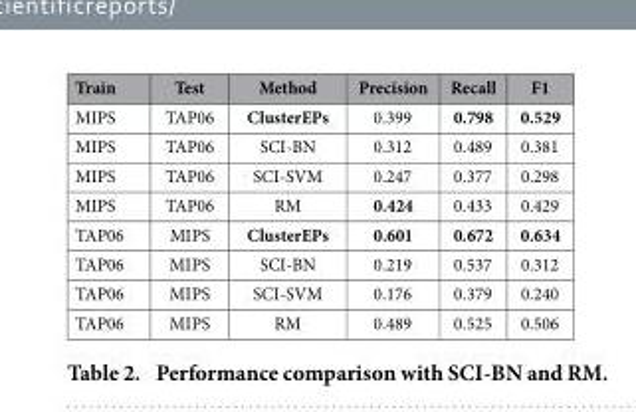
<table><thead><tr><td>Train</td><td>Test</td><td>Method</td><td>Precision</td><td>Recall</td><td>F1</td></tr></thead><tbody><tr><td>MIPS</td><td>TAP06</td><td>ClusterEPs</td><td>0.399</td><td>0.798</td><td>0.529</td></tr><tr><td>MIPS</td><td>TAP06</td><td>SCI-BN</td><td>0.312</td><td>0.489</td><td>0.381</td></tr><tr><td>MIPS</td><td>TAP06</td><td>SCI-SVM</td><td>0.247</td><td>0.377</td><td>0.298</td></tr><tr><td>MIPS</td><td>TAP06</td><td>RM</td><td>0.424</td><td>0.433</td><td>0.429</td></tr><tr><td>TAP06</td><td>MIPS</td><td>ClusterEPs</td><td>0.601</td><td>0.672</td><td>0.634</td></tr><tr><td>TAP06</td><td>MIPS</td><td>SCI-BN</td><td>0.219</td><td>0.537</td><td>0.312</td></tr><tr><td>TAP06</td><td>MIPS</td><td>SCI-SVM</td><td>0.176</td><td>0.379</td><td>0.240</td></tr><tr><td>TAP06</td><td>MIPS</td><td>RM</td><td>0.489</td><td>0.525</td><td>0.506</td></tr></tbody></table>